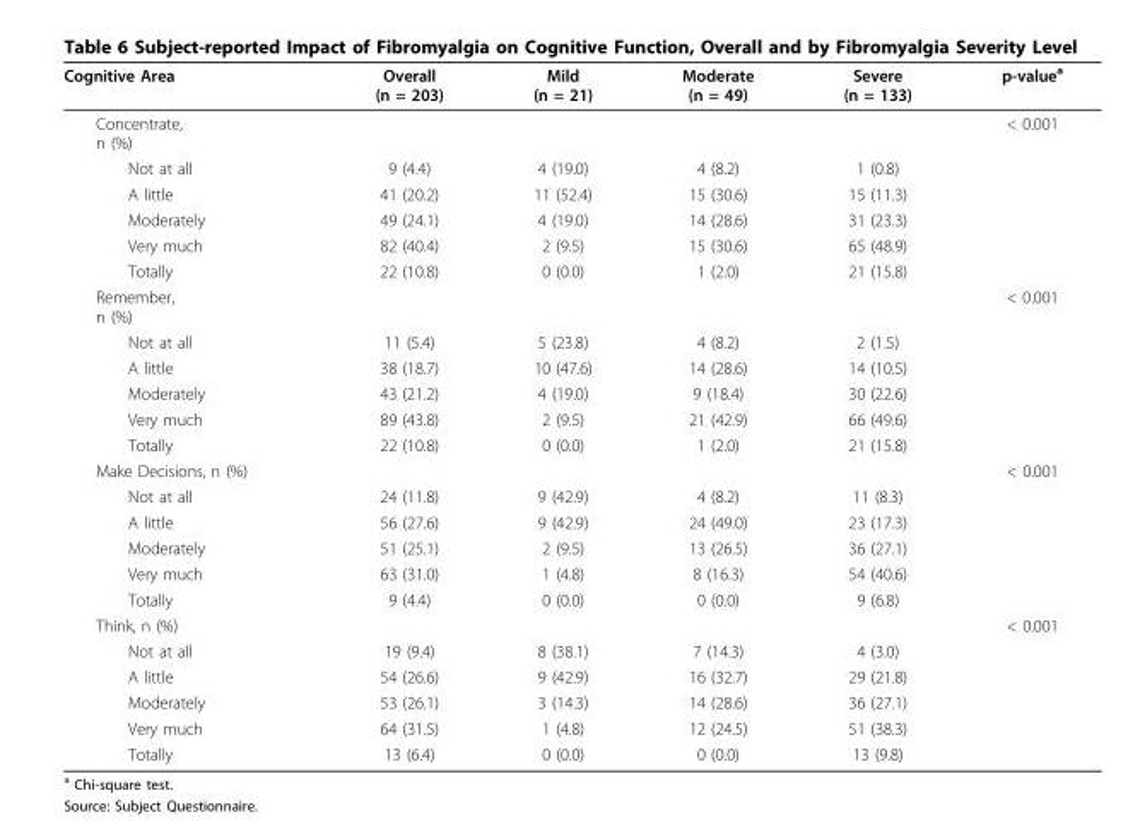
<table><thead><tr><td>Cognitive Area</td><td>Overall (n = 203)</td><td>Mild (n = 21)</td><td>Moderate (n = 49)</td><td>Severe (n = 133)</td><td>p-value<sup>a</sup></td></tr></thead><tbody><tr><td>Concentrate, n (%)</td><td></td><td></td><td></td><td></td><td>&lt; 0.001</td></tr><tr><td>Not at all</td><td>9 (4.4)</td><td>4 (19.0)</td><td>4 (8.2)</td><td>1 (0.8)</td><td></td></tr><tr><td>A little</td><td>41 (20.2)</td><td>11 (52.4)</td><td>15 (30.6)</td><td>15 (11.3)</td><td></td></tr><tr><td>Moderately</td><td>49 (24.1)</td><td>4 (19.0)</td><td>14 (28.6)</td><td>31 (23.3)</td><td></td></tr><tr><td>Very much</td><td>82 (40.4)</td><td>2 (9.5)</td><td>15 (30.6)</td><td>65 (48.9)</td><td></td></tr><tr><td>Totally</td><td>22 (10.8)</td><td>0 (0.0)</td><td>1 (2.0)</td><td>21 (15.8)</td><td></td></tr><tr><td>Remember, n (%)</td><td></td><td></td><td></td><td></td><td>&lt; 0.001</td></tr><tr><td>Not at all</td><td>11 (5.4)</td><td>5 (23.8)</td><td>4 (8.2)</td><td>2 (1.5)</td><td></td></tr><tr><td>A little</td><td>38 (18.7)</td><td>10 (47.6)</td><td>14 (28.6)</td><td>14 (10.5)</td><td></td></tr><tr><td>Moderately</td><td>43 (21.2)</td><td>4 (19.0)</td><td>9 (18.4)</td><td>30 (22.6)</td><td></td></tr><tr><td>Very much</td><td>89 (43.8)</td><td>2 (9.5)</td><td>21 (42.9)</td><td>66 (49.6)</td><td></td></tr><tr><td>Totally</td><td>22 (10.8)</td><td>0 (0.0)</td><td>1 (2.0)</td><td>21 (15.8)</td><td></td></tr><tr><td>Make Decisions, n (%)</td><td></td><td></td><td></td><td></td><td>&lt; 0.001</td></tr><tr><td>Not at all</td><td>24 (11.8)</td><td>9 (42.9)</td><td>4 (8.2)</td><td>11 (8.3)</td><td></td></tr><tr><td>A little</td><td>56 (27.6)</td><td>9 (42.9)</td><td>24 (49.0)</td><td>23 (17.3)</td><td></td></tr><tr><td>Moderately</td><td>51 (25.1)</td><td>2 (9.5)</td><td>13 (26.5)</td><td>36 (27.1)</td><td></td></tr><tr><td>Very much</td><td>63 (31.0)</td><td>1 (4.8)</td><td>8 (16.3)</td><td>54 (40.6)</td><td></td></tr><tr><td>Totally</td><td>9 (4.4)</td><td>0 (0.0)</td><td>0 (0.0)</td><td>9 (6.8)</td><td></td></tr><tr><td>Think, n (%)</td><td></td><td></td><td></td><td></td><td>&lt; 0.001</td></tr><tr><td>Not at all</td><td>19 (9.4)</td><td>8 (38.1)</td><td>7 (14.3)</td><td>4 (3.0)</td><td></td></tr><tr><td>A little</td><td>54 (26.6)</td><td>9 (42.9)</td><td>16 (32.7)</td><td>29 (21.8)</td><td></td></tr><tr><td>Moderately</td><td>53 (26.1)</td><td>3 (14.3)</td><td>14 (28.6)</td><td>36 (27.1)</td><td></td></tr><tr><td>Very much</td><td>64 (31.5)</td><td>1 (4.8)</td><td>12 (24.5)</td><td>51 (38.3)</td><td></td></tr><tr><td>Totally</td><td>13 (6.4)</td><td>0 (0.0)</td><td>0 (0.0)</td><td>13 (9.8)</td><td></td></tr></tbody></table>